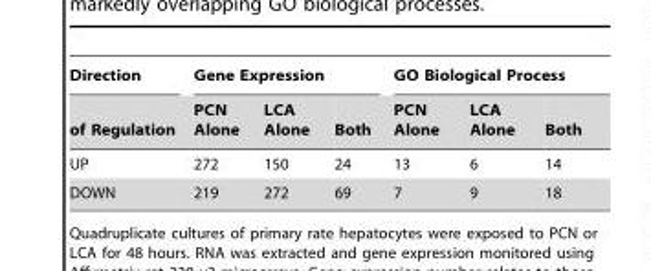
<table><thead><tr><td rowspan="2">Direction of Regulation</td><td colspan="3">Gene Expression</td><td colspan="3">GO Biological Process</td></tr><tr><td>PCN Alone</td><td>LCA Alone</td><td>Both</td><td>PCN Alone</td><td>LCA Alone</td><td>Both</td></tr></thead><tbody><tr><td>UP</td><td>272</td><td>150</td><td>24</td><td>13</td><td>6</td><td>14</td></tr><tr><td>DOWN</td><td>219</td><td>272</td><td>69</td><td>7</td><td>9</td><td>18</td></tr></tbody></table>